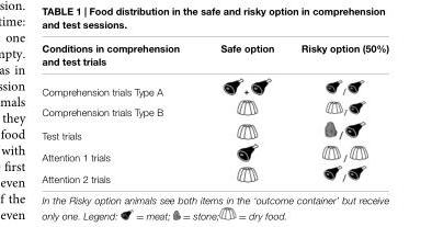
<table><thead><tr><td>Conditions in comprehension and test trials</td><td>Safe option</td><td>Risky option (50%)</td></tr></thead><tbody><tr><td>Comprehension trials Type A</td><td></td><td></td></tr><tr><td>Comprehension trials Type B</td><td></td><td></td></tr><tr><td>Test trials</td><td></td><td></td></tr><tr><td>Attention 1 trials</td><td></td><td></td></tr><tr><td>Attention 2 trials</td><td></td><td></td></tr></tbody></table>